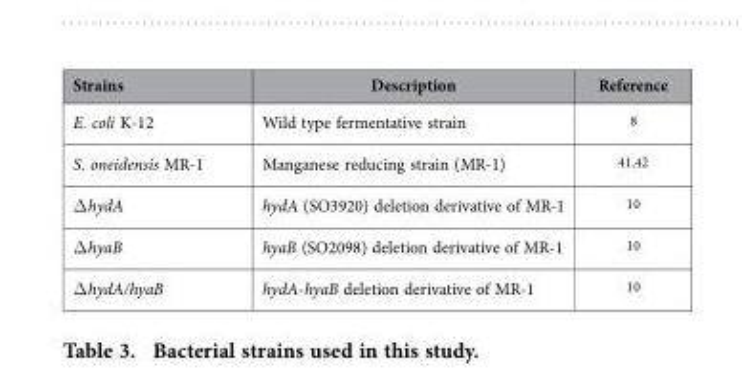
<table><thead><tr><td>Strains</td><td>Description</td><td>Reference</td></tr></thead><tbody><tr><td>E. coli K-12</td><td>Wild type fermentative strain</td><td>8</td></tr><tr><td>S. oneidensis MR-1</td><td>Manganese reducing strain (MR-1)</td><td>41,42</td></tr><tr><td>Δ hydA</td><td>hydA (SO3920) deletion derivative of MR-1</td><td>10</td></tr><tr><td>Δ hyaB</td><td>hyaB (SO2098) deletion derivative of MR-1</td><td>10</td></tr><tr><td>Δ hydA/hyaB</td><td>hydA-hyaB deletion derivative of MR-1</td><td>10</td></tr></tbody></table>